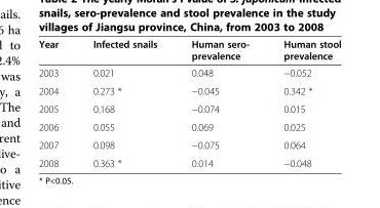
<table><thead><tr><td>Year</td><td>Infected snails</td><td>Human sero- prevalence</td><td>Human stool prevalence</td></tr></thead><tbody><tr><td>2003</td><td>0.021</td><td>0.048</td><td>−0.052</td></tr><tr><td>2004</td><td>0.273 *</td><td>−0.045</td><td>0.342 *</td></tr><tr><td>2005</td><td>0.168</td><td>−0.074</td><td>0.015</td></tr><tr><td>2006</td><td>0.055</td><td>0.069</td><td>0.025</td></tr><tr><td>2007</td><td>0.098</td><td>−0.075</td><td>0.064</td></tr><tr><td>2008</td><td>0.363 *</td><td>0.014</td><td>−0.048</td></tr></tbody></table>